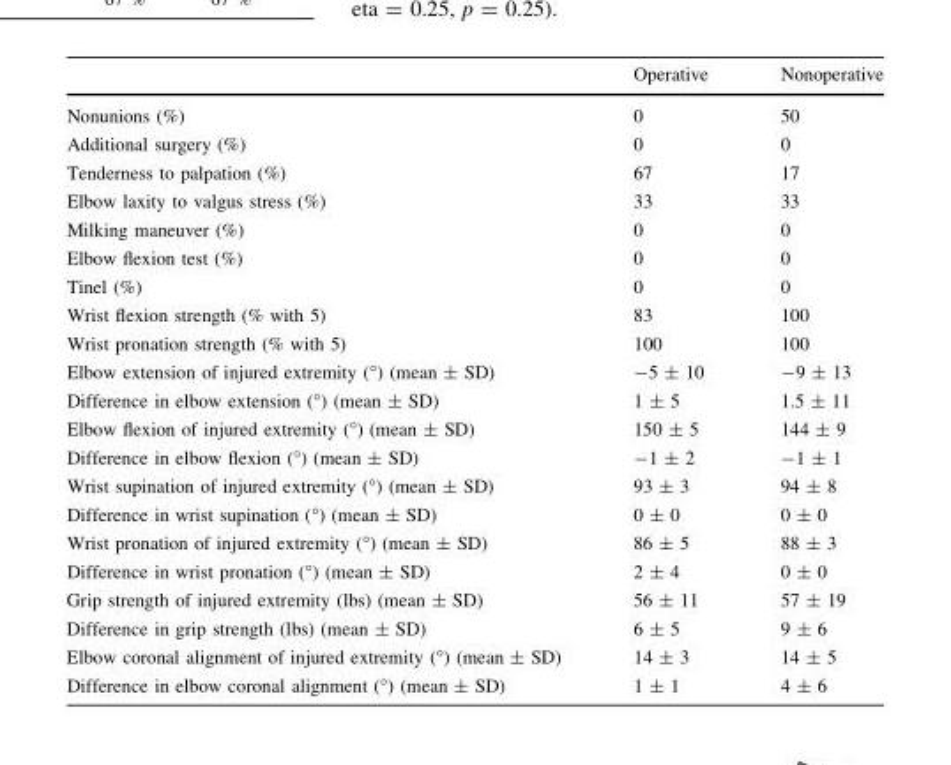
<table><thead><tr><td></td><td>Operative</td><td>Nonoperative</td></tr></thead><tbody><tr><td>Nonunions (%)</td><td>0</td><td>50</td></tr><tr><td>Additional surgery (%)</td><td>0</td><td>0</td></tr><tr><td>Tenderness to palpation (%)</td><td>67</td><td>17</td></tr><tr><td>Elbow laxity to valgus stress (%)</td><td>33</td><td>33</td></tr><tr><td>Milking maneuver (%)</td><td>0</td><td>0</td></tr><tr><td>Elbow flexion test (%)</td><td>0</td><td>0</td></tr><tr><td>Tinel (%)</td><td>0</td><td>0</td></tr><tr><td>Wrist flexion strength (% with 5)</td><td>83</td><td>100</td></tr><tr><td>Wrist pronation strength (% with 5)</td><td>100</td><td>100</td></tr><tr><td>Elbow extension of injured extremity (°) (mean ± SD)</td><td>-5 ± 10</td><td>-9 ± 13</td></tr><tr><td>Difference in elbow extension (°) (mean ± SD)</td><td>1 ± 5</td><td>1.5 ± 11</td></tr><tr><td>Elbow flexion of injured extremity (°) (mean ± SD)</td><td>150 ± 5</td><td>144 ± 9</td></tr><tr><td>Difference in elbow flexion (°) (mean ± SD)</td><td>-1 ± 2</td><td>-1 ± 1</td></tr><tr><td>Wrist supination of injured extremity (°) (mean ± SD)</td><td>93 ± 3</td><td>94 ± 8</td></tr><tr><td>Difference in wrist supination (°) (mean ± SD)</td><td>0 ± 0</td><td>0 ± 0</td></tr><tr><td>Wrist pronation of injured extremity (°) (mean ± SD)</td><td>86 ± 5</td><td>88 ± 3</td></tr><tr><td>Difference in wrist pronation (°) (mean ± SD)</td><td>2 ± 4</td><td>0 ± 0</td></tr><tr><td>Grip strength of injured extremity (lbs) (mean ± SD)</td><td>56 ± 11</td><td>57 ± 19</td></tr><tr><td>Difference in grip strength (lbs) (mean ± SD)</td><td>6 ± 5</td><td>9 ± 6</td></tr><tr><td>Elbow coronal alignment of injured extremity (°) (mean ± SD)</td><td>14 ± 3</td><td>14 ± 5</td></tr><tr><td>Difference in elbow coronal alignment (°) (mean ± SD)</td><td>1 ± 1</td><td>4 ± 6</td></tr></tbody></table>